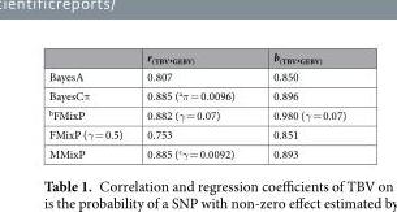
<table><thead><tr><td></td><td>r<sub>(TBV</sub>,<sub>GEBV)</sub></td><td>b<sub>(TBV</sub>,<sub>GEBV)</sub></td></tr></thead><tbody><tr><td>BayesA</td><td>0.807</td><td>0.850</td></tr><tr><td>BayesCπ</td><td>0.885 (<sup>a</sup>π = 0.0096)</td><td>0.896</td></tr><tr><td><sup>b</sup>FMixP</td><td>0.882 (γ = 0.07)</td><td>0.980 (γ = 0.07)</td></tr><tr><td>FMixP (γ = 0.5)</td><td>0.753</td><td>0.851</td></tr><tr><td>MMixP</td><td>0.885 (<sup>c</sup>γ = 0.0092)</td><td>0.893</td></tr></tbody></table>